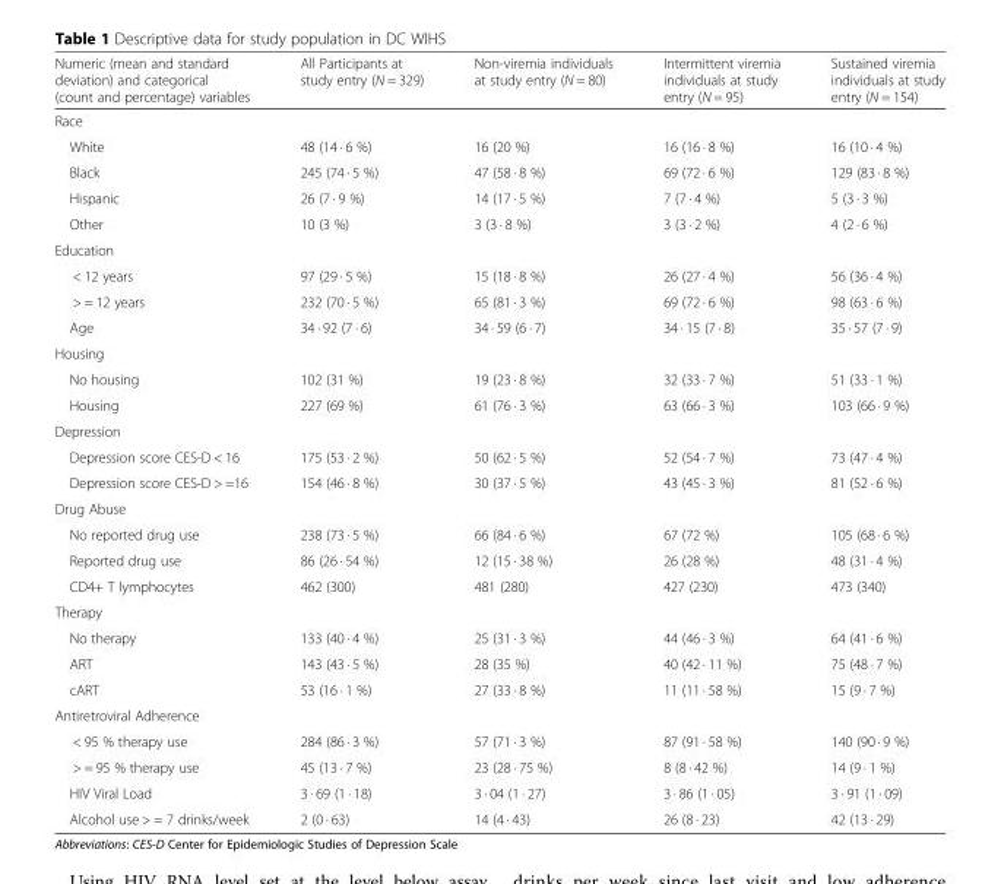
<table><thead><tr><td>Numeric (mean and standard deviation) and categorical (count and percentage) variables</td><td>All Participants at study entry (N = 329)</td><td>Non-viremia individuals at study entry (N = 80)</td><td>Intermittent viremia individuals at study entry (N = 95)</td><td>Sustained viremia individuals at study entry (N = 154)</td></tr></thead><tbody><tr><td colspan="5">Race</td></tr><tr><td>White</td><td>48 (14 · 6 %)</td><td>16 (20 %)</td><td>16 (16 · 8 %)</td><td>16 (10 · 4 %)</td></tr><tr><td>Black</td><td>245 (74 · 5 %)</td><td>47 (58 · 8 %)</td><td>69 (72 · 6 %)</td><td>129 (83 · 8 %)</td></tr><tr><td>Hispanic</td><td>26 (7 · 9 %)</td><td>14 (17 · 5 %)</td><td>7 (7 · 4 %)</td><td>5 (3 · 3 %)</td></tr><tr><td>Other</td><td>10 (3 %)</td><td>3 (3 · 8 %)</td><td>3 (3 · 2 %)</td><td>4 (2 · 6 %)</td></tr><tr><td colspan="5">Education</td></tr><tr><td>&lt; 12 years</td><td>97 (29 · 5 %)</td><td>15 (18 · 8 %)</td><td>26 (27 · 4 %)</td><td>56 (36 · 4 %)</td></tr><tr><td>&gt; = 12 years</td><td>232 (70 · 5 %)</td><td>65 (81 · 3 %)</td><td>69 (72 · 6 %)</td><td>98 (63 · 6 %)</td></tr><tr><td>Age</td><td>34 · 92 (7 · 6)</td><td>34 · 59 (6 · 7)</td><td>34 · 15 (7 · 8)</td><td>35 · 57 (7 · 9)</td></tr><tr><td colspan="5">Housing</td></tr><tr><td>No housing</td><td>102 (31 %)</td><td>19 (23 · 8 %)</td><td>32 (33 · 7 %)</td><td>51 (33 · 1 %)</td></tr><tr><td>Housing</td><td>227 (69 %)</td><td>61 (76 · 3 %)</td><td>63 (66 · 3 %)</td><td>103 (66 · 9 %)</td></tr><tr><td colspan="5">Depression</td></tr><tr><td>Depression score CES-D &lt; 16</td><td>175 (53 · 2 %)</td><td>50 (62 · 5 %)</td><td>52 (54 · 7 %)</td><td>73 (47 · 4 %)</td></tr><tr><td>Depression score CES-D &gt; =16</td><td>154 (46 · 8 %)</td><td>30 (37 · 5 %)</td><td>43 (45 · 3 %)</td><td>81 (52 · 6 %)</td></tr><tr><td colspan="5">Drug Abuse</td></tr><tr><td>No reported drug use</td><td>238 (73 · 5 %)</td><td>66 (84 · 6 %)</td><td>67 (72 %)</td><td>105 (68 · 6 %)</td></tr><tr><td>Reported drug use</td><td>86 (26 · 54 %)</td><td>12 (15 · 38 %)</td><td>26 (28 %)</td><td>48 (31 · 4 %)</td></tr><tr><td>CD4+ T lymphocytes</td><td>462 (300)</td><td>481 (280)</td><td>427 (230)</td><td>473 (340)</td></tr><tr><td colspan="5">Therapy</td></tr><tr><td>No therapy</td><td>133 (40 · 4 %)</td><td>25 (31 · 3 %)</td><td>44 (46 · 3 %)</td><td>64 (41 · 6 %)</td></tr><tr><td>ART</td><td>143 (43 · 5 %)</td><td>28 (35 %)</td><td>40 (42 · 11 %)</td><td>75 (48 · 7 %)</td></tr><tr><td>cART</td><td>53 (16 · 1 %)</td><td>27 (33 · 8 %)</td><td>11 (11 · 58 %)</td><td>15 (9 · 7 %)</td></tr><tr><td colspan="5">Antiretroviral Adherence</td></tr><tr><td>&lt; 95 % therapy use</td><td>284 (86 · 3 %)</td><td>57 (71 · 3 %)</td><td>87 (91 · 58 %)</td><td>140 (90 · 9 %)</td></tr><tr><td>&gt; = 95 % therapy use</td><td>45 (13 · 7 %)</td><td>23 (28 · 75 %)</td><td>8 (8 · 42 %)</td><td>14 (9 · 1 %)</td></tr><tr><td>HIV Viral Load</td><td>3 · 69 (1 · 18)</td><td>3 · 04 (1 · 27)</td><td>3 · 86 (1 · 05)</td><td>3 · 91 (1 · 09)</td></tr><tr><td>Alcohol use &gt; = 7 drinks/week</td><td>2 (0 · 63)</td><td>14 (4 · 43)</td><td>26 (8 · 23)</td><td>42 (13 · 29)</td></tr></tbody></table>